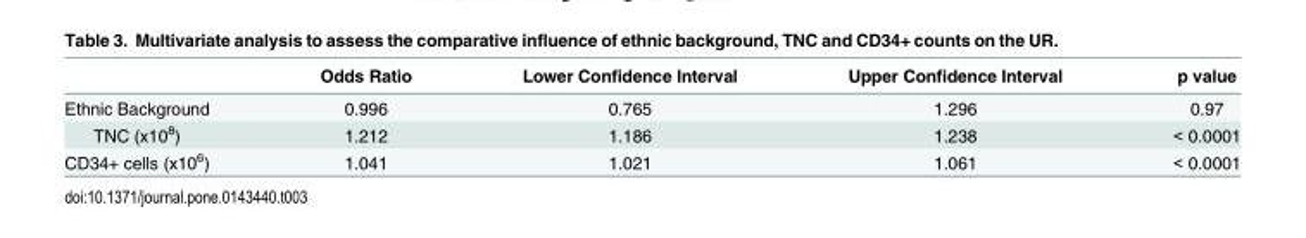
<table><thead><tr><td></td><td>Odds Ratio</td><td>Lower Confidence Interval</td><td>Upper Confidence Interval</td><td>p value</td></tr></thead><tbody><tr><td>Ethnic Background</td><td>0.996</td><td>0.765</td><td>1.296</td><td>0.97</td></tr><tr><td>TNC (x10<sup>8</sup>)</td><td>1.212</td><td>1.186</td><td>1.238</td><td>&lt; 0.0001</td></tr><tr><td>CD34+ cells (x10<sup>6</sup>)</td><td>1.041</td><td>1.021</td><td>1.061</td><td>&lt; 0.0001</td></tr></tbody></table>